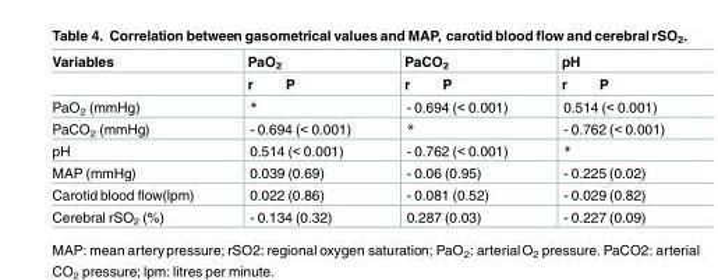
<table><thead><tr><td rowspan="2">Variables</td><td rowspan="2">PaO<sub>2</sub> r P</td><td rowspan="2">PaCO<sub>2</sub> r P</td><td rowspan="2">pH r P</td></tr><tr></tr></thead><tbody><tr><td>PaO<sub>2</sub> (mmHg)</td><td>*</td><td>- 0.694 (&lt; 0.001)</td><td>0.514 (&lt; 0.001)</td></tr><tr><td>PaCO<sub>2</sub> (mmHg)</td><td>- 0.694 (&lt; 0.001)</td><td>*</td><td>- 0.762 (&lt; 0.001)</td></tr><tr><td>pH</td><td>0.514 (&lt; 0.001)</td><td>- 0.762 (&lt; 0.001)</td><td>*</td></tr><tr><td>MAP (mmHg)</td><td>0.039 (0.69)</td><td>- 0.06 (0.95)</td><td>- 0.225 (0.02)</td></tr><tr><td>Carotid blood flow(lpm)</td><td>0.022 (0.86)</td><td>- 0.081 (0.52)</td><td>- 0.029 (0.82)</td></tr><tr><td>Cerebral rSO<sub>2</sub> (%)</td><td>- 0.134 (0.32)</td><td>0.287 (0.03)</td><td>- 0.227 (0.09)</td></tr></tbody></table>